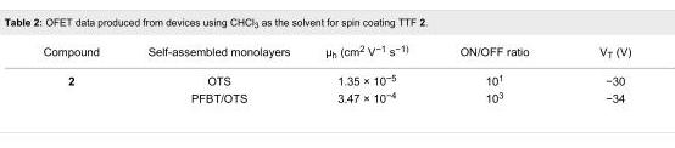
<table><tbody><tr><td>Compound</td><td>Self-assembled monolayers</td><td>µ<sub>h</sub> (cm<sup>2</sup> V<sup>−1</sup> s<sup>−1)</sup></td><td>ON/OFF ratio</td><td>V<sub>T</sub> (V)</td></tr><tr><td rowspan="2">2</td><td>OTS</td><td>1.35 × 10<sup>−5</sup></td><td>10<sup>1</sup></td><td>−30</td></tr><tr><td>PFBT/OTS</td><td>3.47 × 10<sup>−4</sup></td><td>10<sup>3</sup></td><td>−34</td></tr></tbody></table>